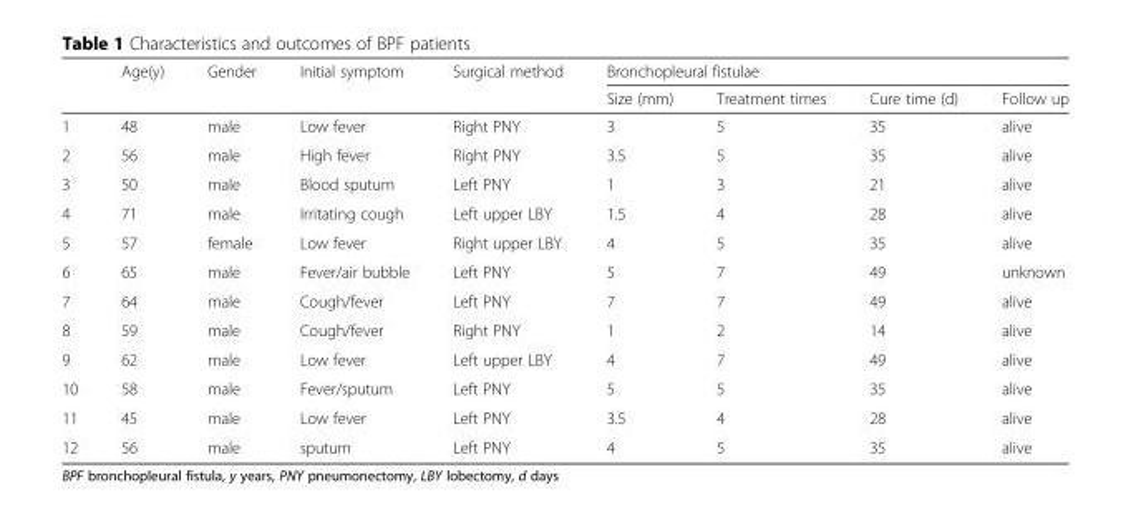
<table><thead><tr><td rowspan="2"></td><td rowspan="2">Age(y)</td><td rowspan="2">Gender</td><td rowspan="2">Initial symptom</td><td rowspan="2">Surgical method</td><td colspan="4">Bronchopleural fistulae</td></tr><tr><td>Size (mm)</td><td>Treatment times</td><td>Cure time (d)</td><td>Follow up</td></tr></thead><tbody><tr><td>1</td><td>48</td><td>male</td><td>Low fever</td><td>Right PNY</td><td>3</td><td>5</td><td>35</td><td>alive</td></tr><tr><td>2</td><td>56</td><td>male</td><td>High fever</td><td>Right PNY</td><td>3.5</td><td>5</td><td>35</td><td>alive</td></tr><tr><td>3</td><td>50</td><td>male</td><td>Blood sputum</td><td>Left PNY</td><td>1</td><td>3</td><td>21</td><td>alive</td></tr><tr><td>4</td><td>71</td><td>male</td><td>Irritating cough</td><td>Left upper LBY</td><td>1.5</td><td>4</td><td>28</td><td>alive</td></tr><tr><td>5</td><td>57</td><td>female</td><td>Low fever</td><td>Right upper LBY</td><td>4</td><td>5</td><td>35</td><td>alive</td></tr><tr><td>6</td><td>65</td><td>male</td><td>Fever/air bubble</td><td>Left PNY</td><td>5</td><td>7</td><td>49</td><td>unknown</td></tr><tr><td>7</td><td>64</td><td>male</td><td>Cough/fever</td><td>Left PNY</td><td>7</td><td>7</td><td>49</td><td>alive</td></tr><tr><td>8</td><td>59</td><td>male</td><td>Cough/fever</td><td>Right PNY</td><td>1</td><td>2</td><td>14</td><td>alive</td></tr><tr><td>9</td><td>62</td><td>male</td><td>Low fever</td><td>Left upper LBY</td><td>4</td><td>7</td><td>49</td><td>alive</td></tr><tr><td>10</td><td>58</td><td>male</td><td>Fever/sputum</td><td>Left PNY</td><td>5</td><td>5</td><td>35</td><td>alive</td></tr><tr><td>11</td><td>45</td><td>male</td><td>Low fever</td><td>Left PNY</td><td>3.5</td><td>4</td><td>28</td><td>alive</td></tr><tr><td>12</td><td>56</td><td>male</td><td>sputum</td><td>Left PNY</td><td>4</td><td>5</td><td>35</td><td>alive</td></tr></tbody></table>